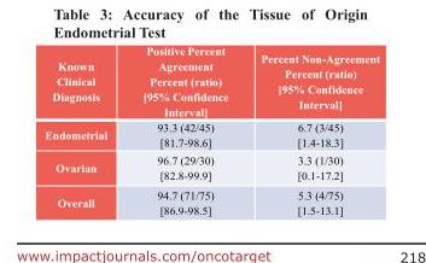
<table><thead><tr><td>Known Clinical Diagnosis</td><td>Positive Percent Agreement Percent (ratio) [95% Confidence Interval]</td><td>Percent Non-Agreement Percent (ratio) [95% Confidence Interval]</td></tr></thead><tbody><tr><td>Endometrial</td><td>93.3 (42/45) [81.7-98.6]</td><td>6.7 (3/45) [1.4-18.3]</td></tr><tr><td>Ovarian</td><td>96.7 (29/30) [82.8-99.9]</td><td>3.3 (1/30) [0.1-17.2]</td></tr><tr><td>Overall</td><td>94.7 (71/75) [86.9-98.5]</td><td>5.3 (4/75) [1.5-13.1]</td></tr></tbody></table>